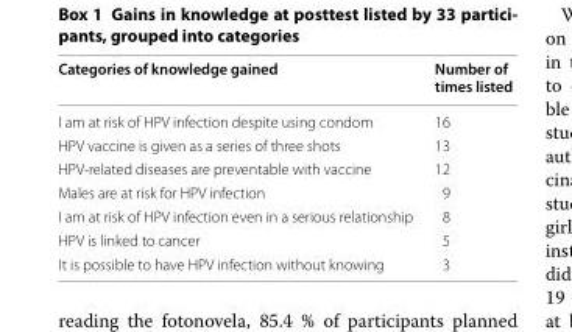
<table><thead><tr><td>Categories of knowledge gained</td><td>Number of times listed</td></tr></thead><tbody><tr><td>I am at risk of HPV infection despite using condom</td><td>16</td></tr><tr><td>HPV vaccine is given as a series of three shots</td><td>13</td></tr><tr><td>HPV‑related diseases are preventable with vaccine</td><td>12</td></tr><tr><td>Males are at risk for HPV infection</td><td>9</td></tr><tr><td>I am at risk of HPV infection even in a serious relationship</td><td>8</td></tr><tr><td>HPV is linked to cancer</td><td>5</td></tr><tr><td>It is possible to have HPV infection without knowing</td><td>3</td></tr></tbody></table>